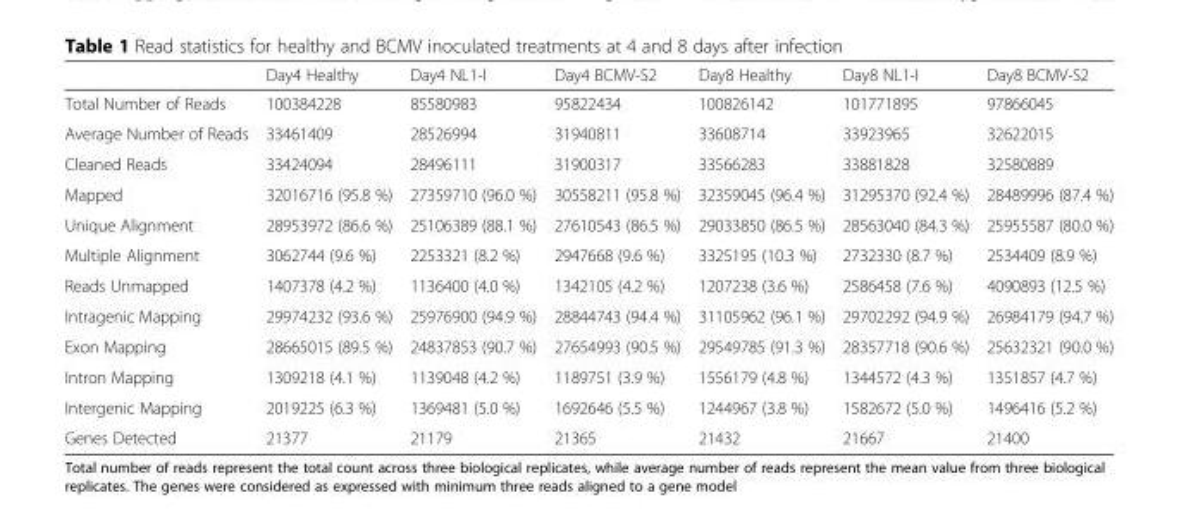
<table><thead><tr><td></td><td>Day4 Healthy</td><td>Day4 NL1-I</td><td>Day4 BCMV-S2</td><td>Day8 Healthy</td><td>Day8 NL1-I</td><td>Day8 BCMV-S2</td></tr></thead><tbody><tr><td>Total Number of Reads</td><td>100384228</td><td>85580983</td><td>95822434</td><td>100826142</td><td>101771895</td><td>97866045</td></tr><tr><td>Average Number of Reads</td><td>33461409</td><td>28526994</td><td>31940811</td><td>33608714</td><td>33923965</td><td>32622015</td></tr><tr><td>Cleaned Reads</td><td>33424094</td><td>28496111</td><td>31900317</td><td>33566283</td><td>33881828</td><td>32580889</td></tr><tr><td>Mapped</td><td>32016716 (95.8 %)</td><td>27359710 (96.0 %)</td><td>30558211 (95.8 %)</td><td>32359045 (96.4 %)</td><td>31295370 (92.4 %)</td><td>28489996 (87.4 %)</td></tr><tr><td>Unique Alignment</td><td>28953972 (86.6 %)</td><td>25106389 (88.1 %)</td><td>27610543 (86.5 %)</td><td>29033850 (86.5 %)</td><td>28563040 (84.3 %)</td><td>25955587 (80.0 %)</td></tr><tr><td>Multiple Alignment</td><td>3062744 (9.6 %)</td><td>2253321 (8.2 %)</td><td>2947668 (9.6 %)</td><td>3325195 (10.3 %)</td><td>2732330 (8.7 %)</td><td>2534409 (8.9 %)</td></tr><tr><td>Reads Unmapped</td><td>1407378 (4.2 %)</td><td>1136400 (4.0 %)</td><td>1342105 (4.2 %)</td><td>1207238 (3.6 %)</td><td>2586458 (7.6 %)</td><td>4090893 (12.5 %)</td></tr><tr><td>Intragenic Mapping</td><td>29974232 (93.6 %)</td><td>25976900 (94.9 %)</td><td>28844743 (94.4 %)</td><td>31105962 (96.1 %)</td><td>29702292 (94.9 %)</td><td>26984179 (94.7 %)</td></tr><tr><td>Exon Mapping</td><td>28665015 (89.5 %)</td><td>24837853 (90.7 %)</td><td>27654993 (90.5 %)</td><td>29549785 (91.3 %)</td><td>28357718 (90.6 %)</td><td>25632321 (90.0 %)</td></tr><tr><td>Intron Mapping</td><td>1309218 (4.1 %)</td><td>1139048 (4.2 %)</td><td>1189751 (3.9 %)</td><td>1556179 (4.8 %)</td><td>1344572 (4.3 %)</td><td>1351857 (4.7 %)</td></tr><tr><td>Intergenic Mapping</td><td>2019225 (6.3 %)</td><td>1369481 (5.0 %)</td><td>1692646 (5.5 %)</td><td>1244967 (3.8 %)</td><td>1582672 (5.0 %)</td><td>1496416 (5.2 %)</td></tr><tr><td>Genes Detected</td><td>21377</td><td>21179</td><td>21365</td><td>21432</td><td>21667</td><td>21400</td></tr></tbody></table>